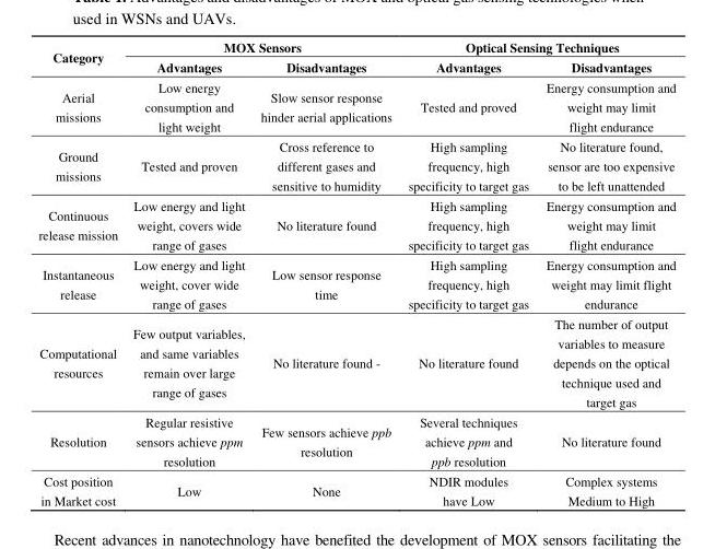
<table><thead><tr><td rowspan="2">Category</td><td colspan="2">MOX Sensors</td><td colspan="2">Optical Sensing Techniques</td></tr><tr><td>Advantages</td><td>Disadvantages</td><td>Advantages</td><td>Disadvantages</td></tr></thead><tbody><tr><td>Aerial missions</td><td>Low energy consumption and light weight</td><td>Slow sensor response hinder aerial applications</td><td>Tested and proved</td><td>Energy consumption and weight may limit flight endurance</td></tr><tr><td>Ground missions</td><td>Tested and proven</td><td>Cross reference to different gases and sensitive to humidity</td><td>High sampling frequency, high specificity to target gas</td><td>No literature found, sensor are too expensive to be left unattended</td></tr><tr><td>Continuous release mission</td><td>Low energy and light weight, covers wide range of gases</td><td>No literature found</td><td>High sampling frequency, high specificity to target gas</td><td>Energy consumption and weight may limit flight endurance</td></tr><tr><td>Instantaneous release</td><td>Low energy and light weight, cover wide range of gases</td><td>Low sensor response time</td><td>High sampling frequency, high specificity to target gas</td><td>Energy consumption and weight may limit flight endurance</td></tr><tr><td>Computational resources</td><td>Few output variables, and same variables remain over large range of gases</td><td>No literature found -</td><td>No literature found</td><td>The number of output variables to measure depends on the optical technique used and target gas</td></tr><tr><td>Resolution</td><td>Regular resistive sensors achieve ppm resolution</td><td>Few sensors achieve ppb resolution</td><td>Several techniques achieve ppm and ppb resolution</td><td>No literature found</td></tr><tr><td>Cost position in Market cost</td><td>Low</td><td>None</td><td>NDIR modules have Low</td><td>Complex systems Medium to High</td></tr></tbody></table>